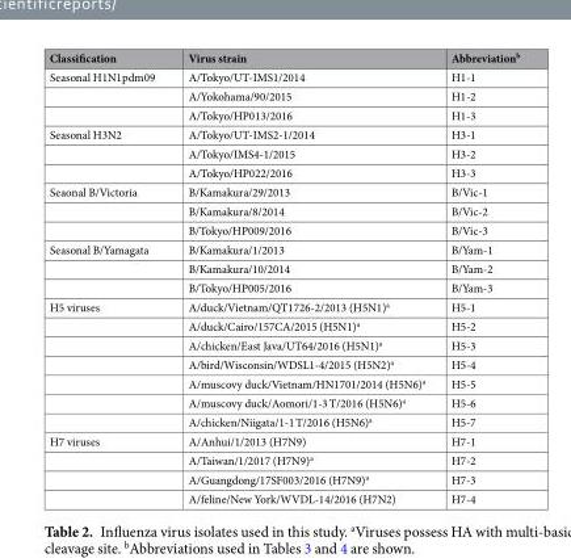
<table><thead><tr><td>Classification</td><td>Virus strain</td><td>Abbreviation<sup>b</sup></td></tr></thead><tbody><tr><td rowspan="3">Seasonal H1N1pdm09</td><td>A/Tokyo/UT-IMS1/2014</td><td>H1-1</td></tr><tr><td>A/Yokohama/90/2015</td><td>H1-2</td></tr><tr><td>A/Tokyo/HP013/2016</td><td>H1-3</td></tr><tr><td rowspan="3">Seasonal H3N2</td><td>A/Tokyo/UT-IMS2-1/2014</td><td>H3-1</td></tr><tr><td>A/Tokyo/IMS4-1/2015</td><td>H3-2</td></tr><tr><td>A/Tokyo/HP022/2016</td><td>H3-3</td></tr><tr><td rowspan="3">Seaonal B/Victoria</td><td>B/Kamakura/29/2013</td><td>B/Vic-1</td></tr><tr><td>B/Kamakura/8/2014</td><td>B/Vic-2</td></tr><tr><td>B/Tokyo/HP009/2016</td><td>B/Vic-3</td></tr><tr><td rowspan="3">Seasonal B/Yamagata</td><td>B/Kamakura/1/2013</td><td>B/Yam-1</td></tr><tr><td>B/Kamakura/10/2014</td><td>B/Yam-2</td></tr><tr><td>B/Tokyo/HP005/2016</td><td>B/Yam-3</td></tr><tr><td rowspan="7">H5 viruses</td><td>A/duck/Vietnam/QT1726-2/2013 (H5N1)<sup>a</sup></td><td>H5-1</td></tr><tr><td>A/duck/Cairo/157CA/2015 (H5N1)<sup>a</sup></td><td>H5-2</td></tr><tr><td>A/chicken/East Java/UT64/2016 (H5N1)<sup>a</sup></td><td>H5-3</td></tr><tr><td>A/bird/Wisconsin/WDSL1-4/2015 (H5N2)<sup>a</sup></td><td>H5-4</td></tr><tr><td>A/muscovy duck/Vietnam/HN1701/2014 (H5N6)<sup>a</sup></td><td>H5-5</td></tr><tr><td>A/muscovy duck/Aomori/1-3 T/2016 (H5N6)<sup>a</sup></td><td>H5-6</td></tr><tr><td>A/chicken/Niigata/1-1 T/2016 (H5N6)<sup>a</sup></td><td>H5-7</td></tr><tr><td rowspan="4">H7 viruses</td><td>A/Anhui/1/2013 (H7N9)</td><td>H7-1</td></tr><tr><td>A/Taiwan/1/2017 (H7N9)<sup>a</sup></td><td>H7-2</td></tr><tr><td>A/Guangdong/17SF003/2016 (H7N9)<sup>a</sup></td><td>H7-3</td></tr><tr><td>A/feline/New York/WVDL-14/2016 (H7N2)</td><td>H7-4</td></tr></tbody></table>